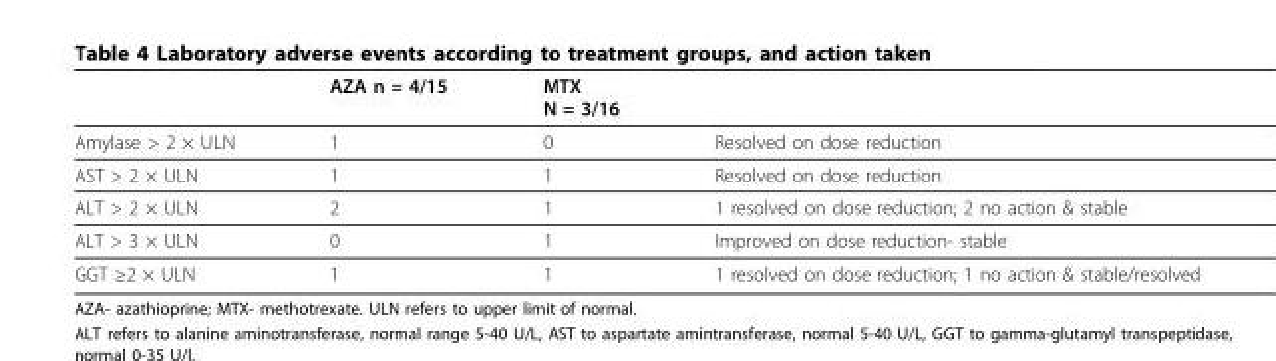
<table><thead><tr><td></td><td>AZA n = 4/15</td><td>MTX N = 3/16</td><td></td></tr></thead><tbody><tr><td>Amylase &gt; 2 × ULN</td><td>1</td><td>0</td><td>Resolved on dose reduction</td></tr><tr><td>AST &gt; 2 × ULN</td><td>1</td><td>1</td><td>Resolved on dose reduction</td></tr><tr><td>ALT &gt; 2 × ULN</td><td>2</td><td>1</td><td>1 resolved on dose reduction; 2 no action &amp; stable</td></tr><tr><td>ALT &gt; 3 × ULN</td><td>0</td><td>1</td><td>Improved on dose reduction- stable</td></tr><tr><td>GGT ≥2 × ULN</td><td>1</td><td>1</td><td>1 resolved on dose reduction; 1 no action &amp; stable/resolved</td></tr></tbody></table>